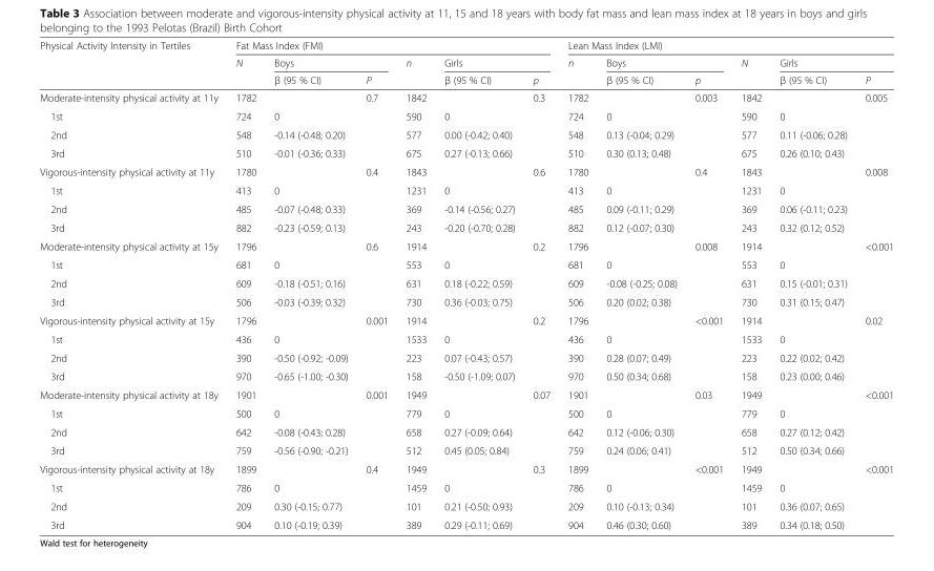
<table><thead><tr><td rowspan="3">Physical Activity Intensity in Tertiles</td><td colspan="6">Fat Mass Index (FMI)</td><td colspan="6">Lean Mass Index (LMI)</td></tr><tr><td rowspan="2">N</td><td colspan="2">Boys</td><td rowspan="2">n</td><td colspan="2">Girls</td><td rowspan="2">n</td><td colspan="2">Boys</td><td rowspan="2">N</td><td colspan="2">Girls</td></tr><tr><td>β (95 % CI)</td><td>P</td><td>β (95 % CI)</td><td>p</td><td>β (95 % CI)</td><td>p</td><td>β (95 % CI)</td><td>P</td></tr></thead><tbody><tr><td>Moderate-intensity physical activity at 11y</td><td>1782</td><td></td><td>0.7</td><td>1842</td><td></td><td>0.3</td><td>1782</td><td></td><td>0.003</td><td>1842</td><td></td><td>0.005</td></tr><tr><td>1st</td><td>724</td><td>0</td><td></td><td>590</td><td>0</td><td></td><td>724</td><td>0</td><td></td><td>590</td><td>0</td><td></td></tr><tr><td>2nd</td><td>548</td><td>-0.14 (-0.48; 0.20)</td><td></td><td>577</td><td>0.00 (-0.42; 0.40)</td><td></td><td>548</td><td>0.13 (-0.04; 0.29)</td><td></td><td>577</td><td>0.11 (-0.06; 0.28)</td><td></td></tr><tr><td>3rd</td><td>510</td><td>-0.01 (-0.36; 0.33)</td><td></td><td>675</td><td>0.27 (-0.13; 0.66)</td><td></td><td>510</td><td>0.30 (0.13; 0.48)</td><td></td><td>675</td><td>0.26 (0.10; 0.43)</td><td></td></tr><tr><td>Vigorous-intensity physical activity at 11y</td><td>1780</td><td></td><td>0.4</td><td>1843</td><td></td><td>0.6</td><td>1780</td><td></td><td>0.4</td><td>1843</td><td></td><td>0.008</td></tr><tr><td>1st</td><td>413</td><td>0</td><td></td><td>1231</td><td>0</td><td></td><td>413</td><td>0</td><td></td><td>1231</td><td>0</td><td></td></tr><tr><td>2nd</td><td>485</td><td>-0.07 (-0.48; 0.33)</td><td></td><td>369</td><td>-0.14 (-0.56; 0.27)</td><td></td><td>485</td><td>0.09 (-0.11; 0.29)</td><td></td><td>369</td><td>0.06 (-0.11; 0.23)</td><td></td></tr><tr><td>3rd</td><td>882</td><td>-0.23 (-0.59; 0.13)</td><td></td><td>243</td><td>-0.20 (-0.70; 0.28)</td><td></td><td>882</td><td>0.12 (-0.07; 0.30)</td><td></td><td>243</td><td>0.32 (0.12; 0.52)</td><td></td></tr><tr><td>Moderate-intensity physical activity at 15y</td><td>1796</td><td></td><td>0.6</td><td>1914</td><td></td><td>0.2</td><td>1796</td><td></td><td>0.008</td><td>1914</td><td></td><td>&lt;0.001</td></tr><tr><td>1st</td><td>681</td><td>0</td><td></td><td>553</td><td>0</td><td></td><td>681</td><td>0</td><td></td><td>553</td><td>0</td><td></td></tr><tr><td>2nd</td><td>609</td><td>-0.18 (-0.51; 0.16)</td><td></td><td>631</td><td>0.18 (-0.22; 0.59)</td><td></td><td>609</td><td>-0.08 (-0.25; 0.08)</td><td></td><td>631</td><td>0.15 (-0.01; 0.31)</td><td></td></tr><tr><td>3rd</td><td>506</td><td>-0.03 (-0.39; 0.32)</td><td></td><td>730</td><td>0.36 (-0.03; 0.75)</td><td></td><td>506</td><td>0.20 (0.02; 0.38)</td><td></td><td>730</td><td>0.31 (0.15; 0.47)</td><td></td></tr><tr><td>Vigorous-intensity physical activity at 15y</td><td>1796</td><td></td><td>0.001</td><td>1914</td><td></td><td>0.2</td><td>1796</td><td></td><td>&lt;0.001</td><td>1914</td><td></td><td>0.02</td></tr><tr><td>1st</td><td>436</td><td>0</td><td></td><td>1533</td><td>0</td><td></td><td>436</td><td>0</td><td></td><td>1533</td><td>0</td><td></td></tr><tr><td>2nd</td><td>390</td><td>-0.50 (-0.92; -0.09)</td><td></td><td>223</td><td>0.07 (-0.43; 0.57)</td><td></td><td>390</td><td>0.28 (0.07; 0.49)</td><td></td><td>223</td><td>0.22 (0.02; 0.42)</td><td></td></tr><tr><td>3rd</td><td>970</td><td>-0.65 (-1.00; -0.30)</td><td></td><td>158</td><td>-0.50 (-1.09; 0.07)</td><td></td><td>970</td><td>0.50 (0.34; 0.68)</td><td></td><td>158</td><td>0.23 (0.00; 0.46)</td><td></td></tr><tr><td>Moderate-intensity physical activity at 18y</td><td>1901</td><td></td><td>0.001</td><td>1949</td><td></td><td>0.07</td><td>1901</td><td></td><td>0.03</td><td>1949</td><td></td><td>&lt;0.001</td></tr><tr><td>1st</td><td>500</td><td>0</td><td></td><td>779</td><td>0</td><td></td><td>500</td><td>0</td><td></td><td>779</td><td>0</td><td></td></tr><tr><td>2nd</td><td>642</td><td>-0.08 (-0.43; 0.28)</td><td></td><td>658</td><td>0.27 (-0.09; 0.64)</td><td></td><td>642</td><td>0.12 (-0.06; 0.30)</td><td></td><td>658</td><td>0.27 (0.12; 0.42)</td><td></td></tr><tr><td>3rd</td><td>759</td><td>-0.56 (-0.90; -0.21)</td><td></td><td>512</td><td>0.45 (0.05; 0.84)</td><td></td><td>759</td><td>0.24 (0.06; 0.41)</td><td></td><td>512</td><td>0.50 (0.34; 0.66)</td><td></td></tr><tr><td>Vigorous-intensity physical activity at 18y</td><td>1899</td><td></td><td>0.4</td><td>1949</td><td></td><td>0.3</td><td>1899</td><td></td><td>&lt;0.001</td><td>1949</td><td></td><td>&lt;0.001</td></tr><tr><td>1st</td><td>786</td><td>0</td><td></td><td>1459</td><td>0</td><td></td><td>786</td><td>0</td><td></td><td>1459</td><td>0</td><td></td></tr><tr><td>2nd</td><td>209</td><td>0.30 (-0.15; 0.77)</td><td></td><td>101</td><td>0.21 (-0.50; 0.93)</td><td></td><td>209</td><td>0.10 (-0.13; 0.34)</td><td></td><td>101</td><td>0.36 (0.07; 0.65)</td><td></td></tr><tr><td>3rd</td><td>904</td><td>0.10 (-0.19; 0.39)</td><td></td><td>389</td><td>0.29 (-0.11; 0.69)</td><td></td><td>904</td><td>0.46 (0.30; 0.60)</td><td></td><td>389</td><td>0.34 (0.18; 0.50)</td><td></td></tr></tbody></table>